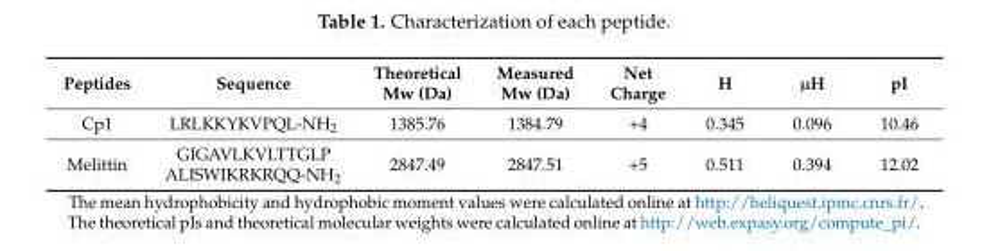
<table><thead><tr><td>Peptides</td><td>Sequence</td><td>Theoretical Mw (Da)</td><td>Measured Mw (Da)</td><td>Net Charge</td><td>H</td><td>µH</td><td>pI</td></tr></thead><tbody><tr><td>Cp1</td><td>LRLKKYKVPQL-NH<sub>2</sub></td><td>1385.76</td><td>1384.79</td><td>+4</td><td>0.345</td><td>0.096</td><td>10.46</td></tr><tr><td>Melittin</td><td>GIGAVLKVLTTGLP ALISWIKRKRQQ-NH<sub>2</sub></td><td>2847.49</td><td>2847.51</td><td>+5</td><td>0.511</td><td>0.394</td><td>12.02</td></tr></tbody></table>